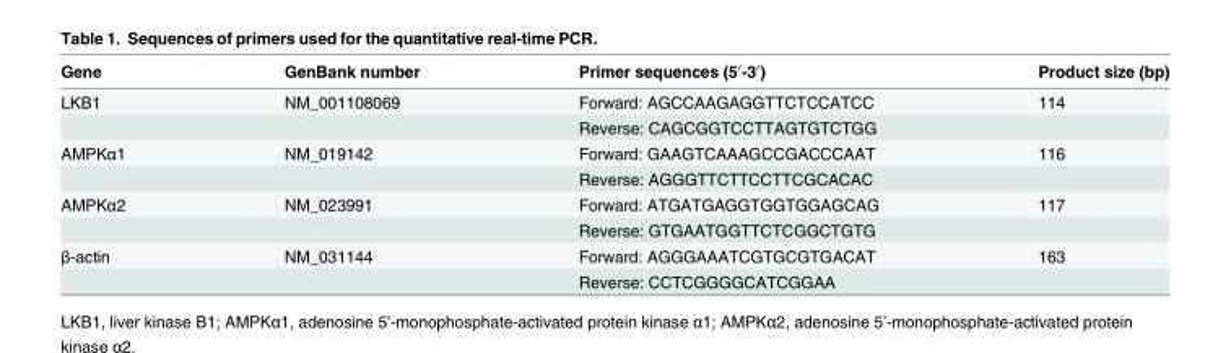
<table><thead><tr><td>Gene</td><td>GenBank number</td><td>Primer sequences (5′-3′)</td><td>Product size (bp)</td></tr></thead><tbody><tr><td rowspan="2">LKB1</td><td>NM_001108069</td><td>Forward: AGCCAAGAGGTTCTCCATCC</td><td>114</td></tr><tr><td></td><td>Reverse: CAGCGGTCCTTAGTGTCTGG</td><td></td></tr><tr><td rowspan="2">AMPKα1</td><td>NM_019142</td><td>Forward: GAAGTCAAAGCCGACCCAAT</td><td>116</td></tr><tr><td></td><td>Reverse: AGGGTTCTTCCTTCGCACAC</td><td></td></tr><tr><td rowspan="2">AMPKα2</td><td>NM_023991</td><td>Forward: ATGATGAGGTGGTGGAGCAG</td><td>117</td></tr><tr><td></td><td>Reverse: GTGAATGGTTCTCGGCTGTG</td><td></td></tr><tr><td rowspan="2">β-actin</td><td>NM_031144</td><td>Forward: AGGGAAATCGTGCGTGACAT</td><td>163</td></tr><tr><td></td><td>Reverse: CCTCGGGGCATCGGAA</td><td></td></tr></tbody></table>